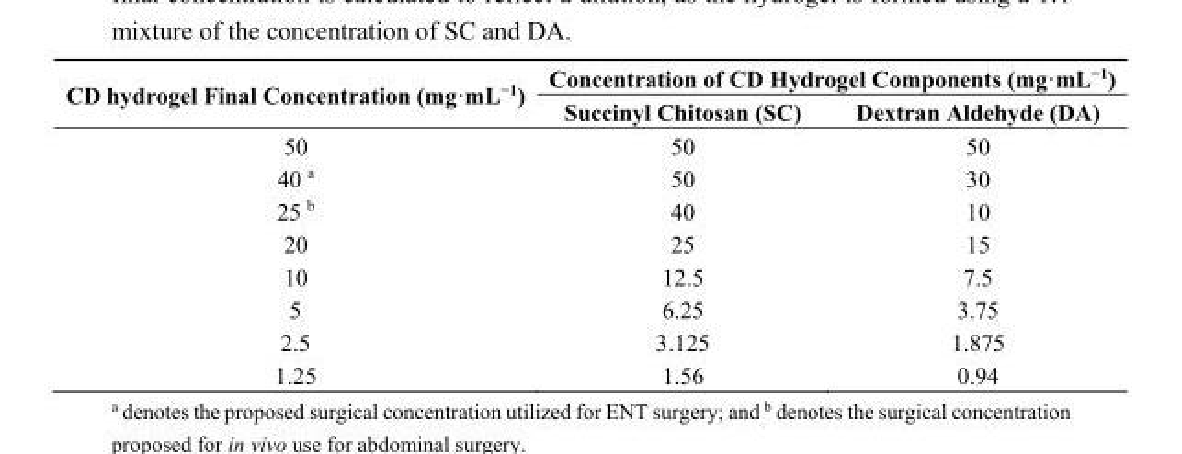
<table><thead><tr><td rowspan="2">CD hydrogel Final Concentration (mg·mL<sup>−1</sup>)</td><td colspan="2">Concentration of CD Hydrogel Components (mg·mL<sup>−1</sup>)</td></tr><tr><td>Succinyl Chitosan (SC)</td><td>Dextran Aldehyde (DA)</td></tr></thead><tbody><tr><td>50</td><td>50</td><td>50</td></tr><tr><td>40 <sup>a</sup></td><td>50</td><td>30</td></tr><tr><td>25 <sup>b</sup></td><td>40</td><td>10</td></tr><tr><td>20</td><td>25</td><td>15</td></tr><tr><td>10</td><td>12.5</td><td>7.5</td></tr><tr><td>5</td><td>6.25</td><td>3.75</td></tr><tr><td>2.5</td><td>3.125</td><td>1.875</td></tr><tr><td>1.25</td><td>1.56</td><td>0.94</td></tr></tbody></table>